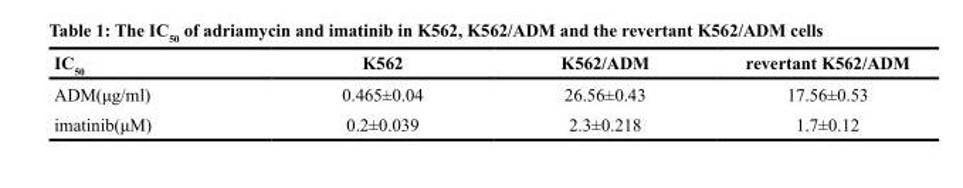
<table><thead><tr><td>IC<sub>50</sub></td><td>K562</td><td>K562/ADM</td><td>revertant K562/ADM</td></tr></thead><tbody><tr><td>ADM(μg/ml)</td><td>0.465±0.04</td><td>26.56±0.43</td><td>17.56±0.53</td></tr><tr><td>imatinib(μM)</td><td>0.2±0.039</td><td>2.3±0.218</td><td>1.7±0.12</td></tr></tbody></table>